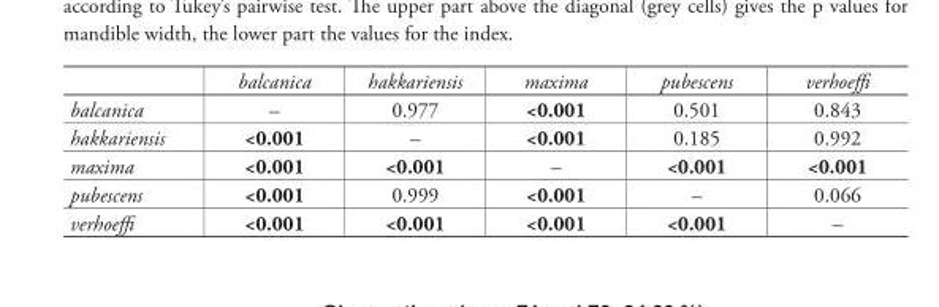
<table><thead><tr><td></td><td>balcanica</td><td>hakkariensis</td><td>maxima</td><td>pubescens</td><td>verhoeffi</td></tr></thead><tbody><tr><td>balcanica</td><td>–</td><td>0.977</td><td>&lt;0.001</td><td>0.501</td><td>0.843</td></tr><tr><td>hakkariensis</td><td>&lt;0.001</td><td>–</td><td>&lt;0.001</td><td>0.185</td><td>0.992</td></tr><tr><td>maxima</td><td>&lt;0.001</td><td>&lt;0.001</td><td>–</td><td>&lt;0.001</td><td>&lt;0.001</td></tr><tr><td>pubescens</td><td>&lt;0.001</td><td>0.999</td><td>&lt;0.001</td><td>–</td><td>0.066</td></tr><tr><td>verhoeffi</td><td>&lt;0.001</td><td>&lt;0.001</td><td>&lt;0.001</td><td>&lt;0.001</td><td>–</td></tr></tbody></table>